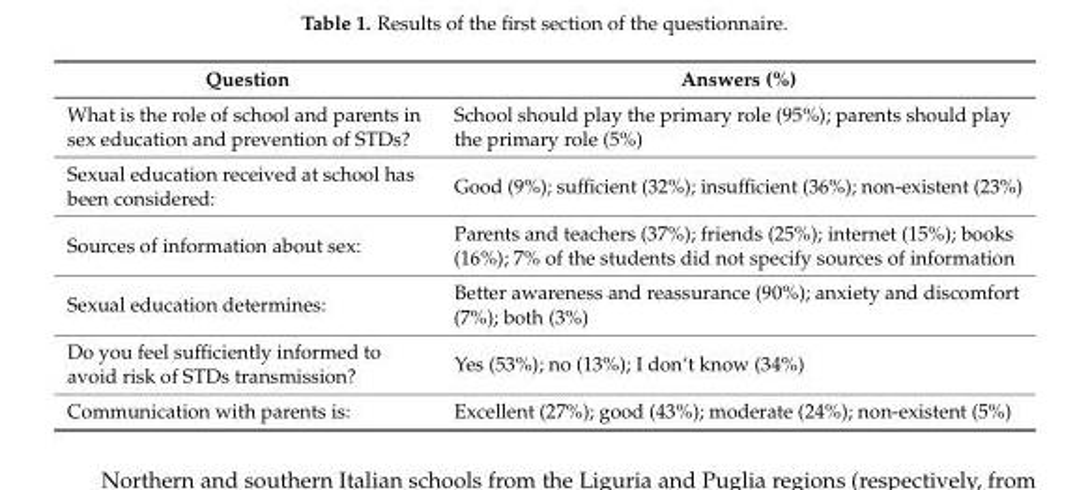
<table><thead><tr><td>Question</td><td>Answers (%)</td></tr></thead><tbody><tr><td>What is the role of school and parents in sex education and prevention of STDs?</td><td>School should play the primary role (95%); parents should play the primary role (5%)</td></tr><tr><td>Sexual education received at school has been considered:</td><td>Good (9%); sufficient (32%); insufficient (36%); non-existent (23%)</td></tr><tr><td>Sources of information about sex:</td><td>Parents and teachers (37%); friends (25%); internet (15%); books (16%); 7% of the students did not specify sources of information</td></tr><tr><td>Sexual education determines:</td><td>Better awareness and reassurance (90%); anxiety and discomfort (7%); both (3%)</td></tr><tr><td>Do you feel sufficiently informed to avoid risk of STDs transmission?</td><td>Yes (53%); no (13%); I don‘t know (34%)</td></tr><tr><td>Communication with parents is:</td><td>Excellent (27%); good (43%); moderate (24%); non-existent (5%)</td></tr></tbody></table>